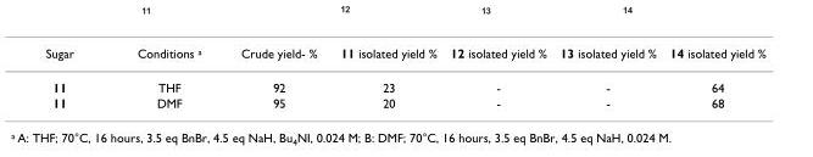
<table><tbody><tr><td>Sugar</td><td>Conditions <sup>a</sup></td><td>Crude yield- %</td><td>11 isolated yield %</td><td>12 isolated yield %</td><td>13 isolated yield %</td><td>14 isolated yield %</td></tr><tr><td>11</td><td>THF</td><td>92</td><td>23</td><td>-</td><td>-</td><td>64</td></tr><tr><td>11</td><td>DMF</td><td>95</td><td>20</td><td>-</td><td>-</td><td>68</td></tr></tbody></table>